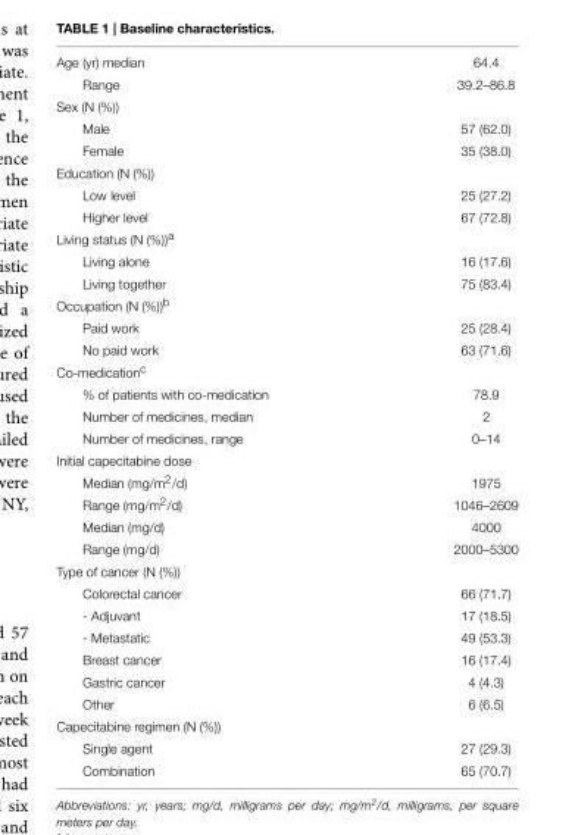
<table><tbody><tr><td>Age (yr) median</td><td>64.4</td></tr><tr><td>Range</td><td>39.2–86.8</td></tr><tr><td colspan="2">Sex (N (%))</td></tr><tr><td>Male</td><td>57 (62.0)</td></tr><tr><td>Female</td><td>35 (38.0)</td></tr><tr><td colspan="2">Education (N (%))</td></tr><tr><td>Low level</td><td>25 (27.2)</td></tr><tr><td>Higher level</td><td>67 (72.8)</td></tr><tr><td colspan="2">Living status (N (%))<sup>a</sup></td></tr><tr><td>Living alone</td><td>16 (17.6)</td></tr><tr><td>Living together</td><td>75 (83.4)</td></tr><tr><td colspan="2">Occupation (N (%))<sup>b</sup></td></tr><tr><td>Paid work</td><td>25 (28.4)</td></tr><tr><td>No paid work</td><td>63 (71.6)</td></tr><tr><td colspan="2">Co-medication<sup>c</sup></td></tr><tr><td>% of patients with co-medication</td><td>78.9</td></tr><tr><td>Number of medicines, median</td><td>2</td></tr><tr><td>Number of medicines, range</td><td>0–14</td></tr><tr><td colspan="2">Initial capecitabine dose</td></tr><tr><td>Median (mg/m<sup>2</sup>/d)</td><td>1975</td></tr><tr><td>Range (mg/m<sup>2</sup>/d)</td><td>1046–2609</td></tr><tr><td>Median (mg/d)</td><td>4000</td></tr><tr><td>Range (mg/d)</td><td>2000–5300</td></tr><tr><td colspan="2">Type of cancer (N (%))</td></tr><tr><td>Colorectal cancer</td><td>66 (71.7)</td></tr><tr><td>- Adjuvant</td><td>17 (18.5)</td></tr><tr><td>- Metastatic</td><td>49 (53.3)</td></tr><tr><td>Breast cancer</td><td>16 (17.4)</td></tr><tr><td>Gastric cancer</td><td>4 (4.3)</td></tr><tr><td>Other</td><td>6 (6.5)</td></tr><tr><td colspan="2">Capecitabine regimen (N (%))</td></tr><tr><td>Single agent</td><td>27 (29.3)</td></tr><tr><td>Combination</td><td>65 (70.7)</td></tr></tbody></table>